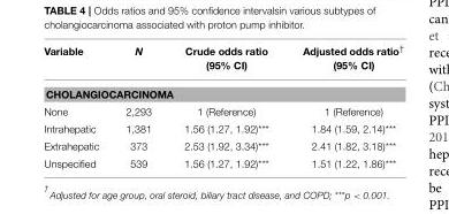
<table><thead><tr><td>Variable</td><td>N</td><td>Crude odds ratio (95% CI)</td><td>Adjusted odds ratio<sup>†</sup> (95% CI)</td></tr></thead><tbody><tr><td colspan="4">CHOLANGIOCARCINOMA</td></tr><tr><td>None</td><td>2,293</td><td>1 (Reference)</td><td>1 (Reference)</td></tr><tr><td>Intrahepatic</td><td>1,381</td><td>1.56 (1.27, 1.92)***</td><td>1.84 (1.59, 2.14)***</td></tr><tr><td>Extrahepatic</td><td>373</td><td>2.53 (1.92, 3.34)***</td><td>2.41 (1.82, 3.18)***</td></tr><tr><td>Unspecified</td><td>539</td><td>1.56 (1.27, 1.92)***</td><td>1.51 (1.22, 1.86)***</td></tr></tbody></table>